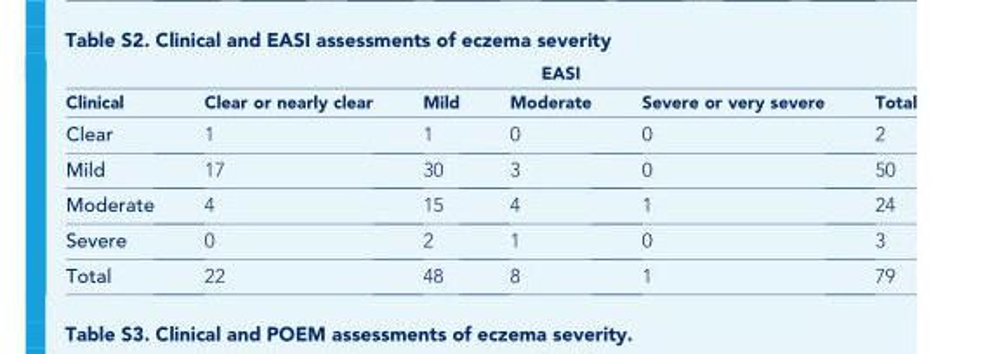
<table><thead><tr><td rowspan="2">Clinical</td><td colspan="5">EASI</td></tr><tr><td>Clear or nearly clear</td><td>Mild</td><td>Moderate</td><td>Severe or very severe</td><td>Total</td></tr></thead><tbody><tr><td>Clear</td><td>1</td><td>1</td><td>0</td><td>0</td><td>2</td></tr><tr><td>Mild</td><td>17</td><td>30</td><td>3</td><td>0</td><td>50</td></tr><tr><td>Moderate</td><td>4</td><td>15</td><td>4</td><td>1</td><td>24</td></tr><tr><td>Severe</td><td>0</td><td>2</td><td>1</td><td>0</td><td>3</td></tr><tr><td>Total</td><td>22</td><td>48</td><td>8</td><td>1</td><td>79</td></tr></tbody></table>